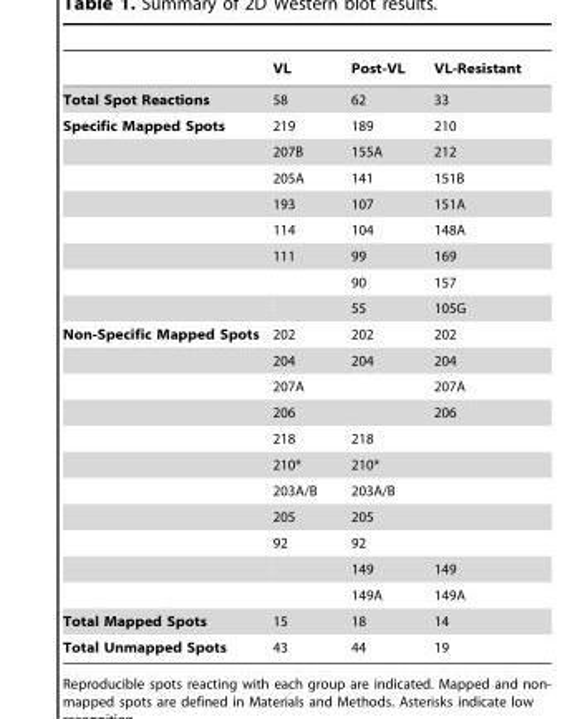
<table><thead><tr><td></td><td>VL</td><td>Post-VL</td><td>VL-Resistant</td></tr></thead><tbody><tr><td>Total Spot Reactions</td><td>58</td><td>62</td><td>33</td></tr><tr><td rowspan="8">Specific Mapped Spots</td><td>219</td><td>189</td><td>210</td></tr><tr><td>207B</td><td>155A</td><td>212</td></tr><tr><td>205A</td><td>141</td><td>151B</td></tr><tr><td>193</td><td>107</td><td>151A</td></tr><tr><td>114</td><td>104</td><td>148A</td></tr><tr><td>111</td><td>99</td><td>169</td></tr><tr><td></td><td>90</td><td>157</td></tr><tr><td></td><td>55</td><td>105G</td></tr><tr><td rowspan="11">Non-Specific Mapped Spots</td><td>202</td><td>202</td><td>202</td></tr><tr><td>204</td><td>204</td><td>204</td></tr><tr><td>207A</td><td></td><td>207A</td></tr><tr><td>206</td><td></td><td>206</td></tr><tr><td>218</td><td>218</td><td></td></tr><tr><td>210*</td><td>210*</td><td></td></tr><tr><td>203A/B</td><td>203A/B</td><td></td></tr><tr><td>205</td><td>205</td><td></td></tr><tr><td>92</td><td>92</td><td></td></tr><tr><td></td><td>149</td><td>149</td></tr><tr><td></td><td>149A</td><td>149A</td></tr><tr><td>Total Mapped Spots</td><td>15</td><td>18</td><td>14</td></tr><tr><td>Total Unmapped Spots</td><td>43</td><td>44</td><td>19</td></tr></tbody></table>